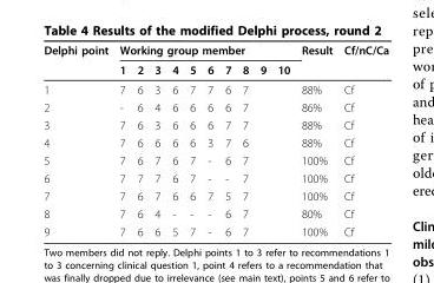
<table><thead><tr><td rowspan="2">Delphi point</td><td colspan="10">Working group member</td><td rowspan="2">Result</td><td rowspan="2">Cf/nC/Ca</td></tr><tr><td>1</td><td>2</td><td>3</td><td>4</td><td>5</td><td>6</td><td>7</td><td>8</td><td>9</td><td>10</td></tr></thead><tbody><tr><td>1</td><td>7</td><td>6</td><td>3</td><td>6</td><td>7</td><td>7</td><td>6</td><td>7</td><td></td><td></td><td>88%</td><td>Cf</td></tr><tr><td>2</td><td>-</td><td>6</td><td>4</td><td>6</td><td>6</td><td>6</td><td>6</td><td>7</td><td></td><td></td><td>86%</td><td>Cf</td></tr><tr><td>3</td><td>7</td><td>6</td><td>3</td><td>6</td><td>6</td><td>6</td><td>7</td><td>7</td><td></td><td></td><td>88%</td><td>Cf</td></tr><tr><td>4</td><td>7</td><td>6</td><td>6</td><td>6</td><td>6</td><td>3</td><td>7</td><td>6</td><td></td><td></td><td>88%</td><td>Cf</td></tr><tr><td>5</td><td>7</td><td>6</td><td>7</td><td>6</td><td>7</td><td>-</td><td>6</td><td>7</td><td></td><td></td><td>100%</td><td>Cf</td></tr><tr><td>6</td><td>7</td><td>7</td><td>7</td><td>6</td><td>7</td><td>-</td><td>-</td><td>7</td><td></td><td></td><td>100%</td><td>Cf</td></tr><tr><td>7</td><td>7</td><td>6</td><td>7</td><td>6</td><td>6</td><td>7</td><td>5</td><td>7</td><td></td><td></td><td>100%</td><td>Cf</td></tr><tr><td>8</td><td>7</td><td>6</td><td>4</td><td>-</td><td>-</td><td>-</td><td>6</td><td>7</td><td></td><td></td><td>80%</td><td>Cf</td></tr><tr><td>9</td><td>7</td><td>6</td><td>6</td><td>5</td><td>7</td><td>-</td><td>6</td><td>7</td><td></td><td></td><td>100%</td><td>Cf</td></tr></tbody></table>